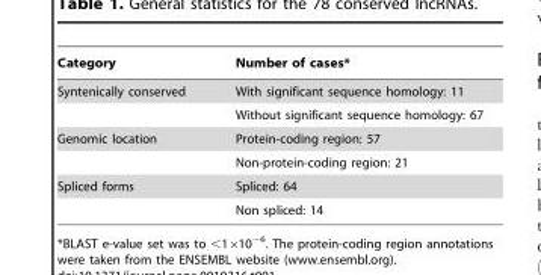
<table><thead><tr><td>Category</td><td>Number of cases*</td></tr></thead><tbody><tr><td rowspan="2">Syntenically conserved</td><td>With significant sequence homology: 11</td></tr><tr><td>Without significant sequence homology: 67</td></tr><tr><td rowspan="2">Genomic location</td><td>Protein-coding region: 57</td></tr><tr><td>Non-protein-coding region: 21</td></tr><tr><td rowspan="2">Spliced forms</td><td>Spliced: 64</td></tr><tr><td>Non spliced: 14</td></tr></tbody></table>